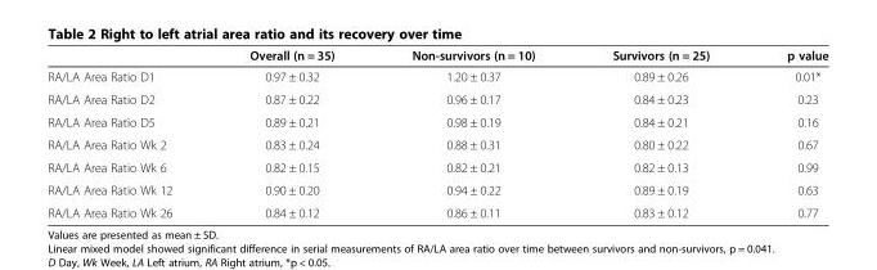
<table><thead><tr><td></td><td>Overall (n = 35)</td><td>Non-survivors (n = 10)</td><td>Survivors (n = 25)</td><td>p value</td></tr></thead><tbody><tr><td>RA/LA Area Ratio D1</td><td>0.97 ± 0.32</td><td>1.20 ± 0.37</td><td>0.89 ± 0.26</td><td>0.01*</td></tr><tr><td>RA/LA Area Ratio D2</td><td>0.87 ± 0.22</td><td>0.96 ± 0.17</td><td>0.84 ± 0.23</td><td>0.23</td></tr><tr><td>RA/LA Area Ratio D5</td><td>0.89 ± 0.21</td><td>0.98 ± 0.19</td><td>0.84 ± 0.21</td><td>0.16</td></tr><tr><td>RA/LA Area Ratio Wk 2</td><td>0.83 ± 0.24</td><td>0.88 ± 0.31</td><td>0.80 ± 0.22</td><td>0.67</td></tr><tr><td>RA/LA Area Ratio Wk 6</td><td>0.82 ± 0.15</td><td>0.82 ± 0.21</td><td>0.82 ± 0.13</td><td>0.99</td></tr><tr><td>RA/LA Area Ratio Wk 12</td><td>0.90 ± 0.20</td><td>0.94 ± 0.22</td><td>0.89 ± 0.19</td><td>0.63</td></tr><tr><td>RA/LA Area Ratio Wk 26</td><td>0.84 ± 0.12</td><td>0.86 ± 0.11</td><td>0.83 ± 0.12</td><td>0.77</td></tr></tbody></table>